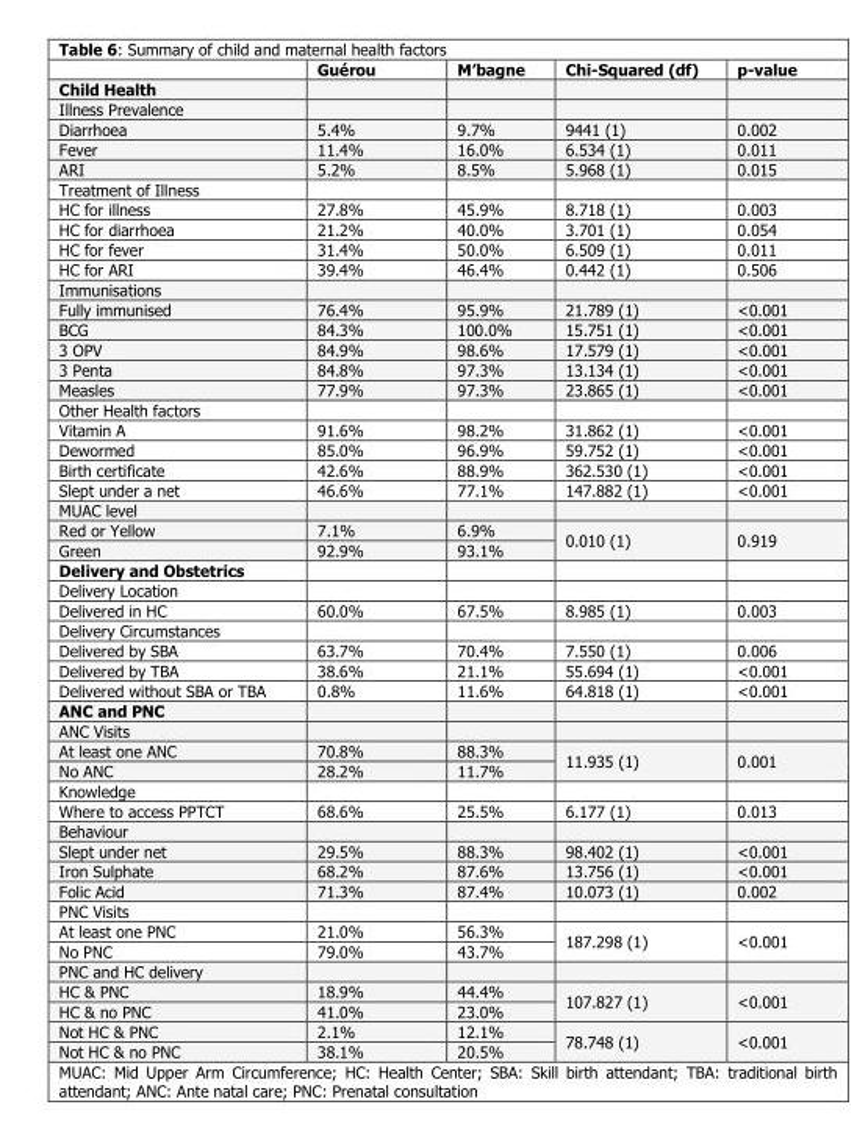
<table><thead><tr><td></td><td>Guérou</td><td>M’bagne</td><td>Chi-Squared (df)</td><td>p-value</td></tr></thead><tbody><tr><td colspan="5">Child Health</td></tr><tr><td colspan="5">Illness Prevalence</td></tr><tr><td>Diarrhoea</td><td>5.4%</td><td>9.7%</td><td>9441 (1)</td><td>0.002</td></tr><tr><td>Fever</td><td>11.4%</td><td>16.0%</td><td>6.534 (1)</td><td>0.011</td></tr><tr><td>ARI</td><td>5.2%</td><td>8.5%</td><td>5.968 (1)</td><td>0.015</td></tr><tr><td colspan="5">Treatment of Illness</td></tr><tr><td>HC for illness</td><td>27.8%</td><td>45.9%</td><td>8.718 (1)</td><td>0.003</td></tr><tr><td>HC for diarrhoea</td><td>21.2%</td><td>40.0%</td><td>3.701 (1)</td><td>0.054</td></tr><tr><td>HC for fever</td><td>31.4%</td><td>50.0%</td><td>6.509 (1)</td><td>0.011</td></tr><tr><td>HC for ARI</td><td>39.4%</td><td>46.4%</td><td>0.442 (1)</td><td>0.506</td></tr><tr><td colspan="5">Immunisations</td></tr><tr><td>Fully immunised</td><td>76.4%</td><td>95.9%</td><td>21.789 (1)</td><td>&lt;0.001</td></tr><tr><td>BCG</td><td>84.3%</td><td>100.0%</td><td>15.751 (1)</td><td>&lt;0.001</td></tr><tr><td>3 OPV</td><td>84.9%</td><td>98.6%</td><td>17.579 (1)</td><td>&lt;0.001</td></tr><tr><td>3 Penta</td><td>84.8%</td><td>97.3%</td><td>13.134 (1)</td><td>&lt;0.001</td></tr><tr><td>Measles</td><td>77.9%</td><td>97.3%</td><td>23.865 (1)</td><td>&lt;0.001</td></tr><tr><td colspan="5">Other Health factors</td></tr><tr><td>Vitamin A</td><td>91.6%</td><td>98.2%</td><td>31.862 (1)</td><td>&lt;0.001</td></tr><tr><td>Dewormed</td><td>85.0%</td><td>96.9%</td><td>59.752 (1)</td><td>&lt;0.001</td></tr><tr><td>Birth certificate</td><td>42.6%</td><td>88.9%</td><td>362.530 (1)</td><td>&lt;0.001</td></tr><tr><td>Slept under a net</td><td>46.6%</td><td>77.1%</td><td>147.882 (1)</td><td>&lt;0.001</td></tr><tr><td colspan="5">MUAC level</td></tr><tr><td>Red or Yellow</td><td>7.1%</td><td>6.9%</td><td rowspan="2">0.010 (1)</td><td rowspan="2">0.919</td></tr><tr><td>Green</td><td>92.9%</td><td>93.1%</td></tr><tr><td colspan="5">Delivery and Obstetrics</td></tr><tr><td colspan="5">Delivery Location</td></tr><tr><td>Delivered in HC</td><td>60.0%</td><td>67.5%</td><td>8.985 (1)</td><td>0.003</td></tr><tr><td colspan="5">Delivery Circumstances</td></tr><tr><td>Delivered by SBA</td><td>63.7%</td><td>70.4%</td><td>7.550 (1)</td><td>0.006</td></tr><tr><td>Delivered by TBA</td><td>38.6%</td><td>21.1%</td><td>55.694 (1)</td><td>&lt;0.001</td></tr><tr><td>Delivered without SBA or TBA</td><td>0.8%</td><td>11.6%</td><td>64.818 (1)</td><td>&lt;0.001</td></tr><tr><td colspan="5">ANC and PNC</td></tr><tr><td colspan="5">ANC Visits</td></tr><tr><td>At least one ANC</td><td>70.8%</td><td>88.3%</td><td rowspan="2">11.935 (1)</td><td rowspan="2">0.001</td></tr><tr><td>No ANC</td><td>28.2%</td><td>11.7%</td></tr><tr><td colspan="5">Knowledge</td></tr><tr><td>Where to access PPTCT</td><td>68.6%</td><td>25.5%</td><td>6.177 (1)</td><td>0.013</td></tr><tr><td colspan="5">Behaviour</td></tr><tr><td>Slept under net</td><td>29.5%</td><td>88.3%</td><td>98.402 (1)</td><td>&lt;0.001</td></tr><tr><td>Iron Sulphate</td><td>68.2%</td><td>87.6%</td><td>13.756 (1)</td><td>&lt;0.001</td></tr><tr><td>Folic Acid</td><td>71.3%</td><td>87.4%</td><td>10.073 (1)</td><td>0.002</td></tr><tr><td colspan="5">PNC Visits</td></tr><tr><td>At least one PNC</td><td>21.0%</td><td>56.3%</td><td rowspan="2">187.298 (1)</td><td rowspan="2">&lt;0.001</td></tr><tr><td>No PNC</td><td>79.0%</td><td>43.7%</td></tr><tr><td colspan="5">PNC and HC delivery</td></tr><tr><td>HC &amp; PNC</td><td>18.9%</td><td>44.4%</td><td rowspan="2">107.827 (1)</td><td rowspan="2">&lt;0.001</td></tr><tr><td>HC &amp; no PNC</td><td>41.0%</td><td>23.0%</td></tr><tr><td>Not HC &amp; PNC</td><td>2.1%</td><td>12.1%</td><td rowspan="2">78.748 (1)</td><td rowspan="2">&lt;0.001</td></tr><tr><td>Not HC &amp; no PNC</td><td>38.1%</td><td>20.5%</td></tr></tbody></table>